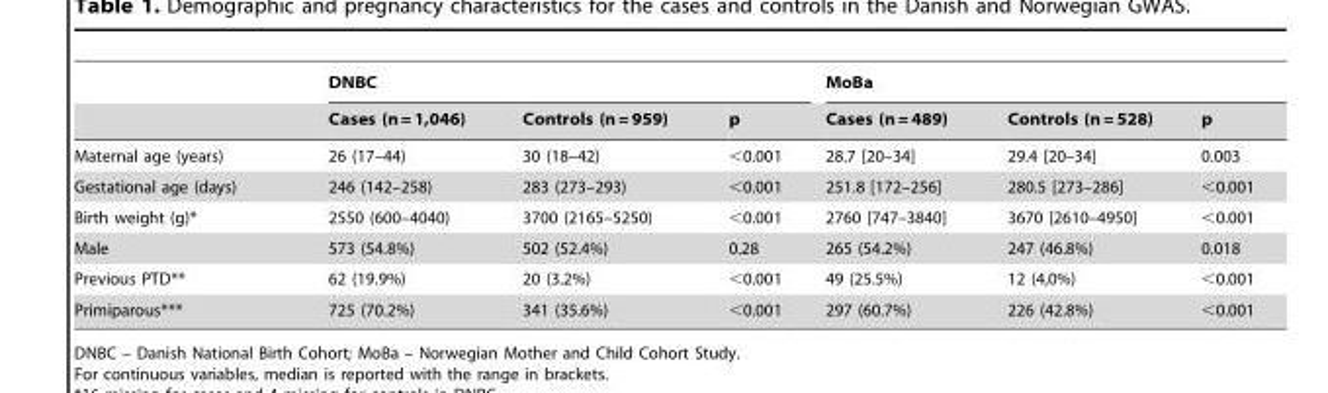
<table><thead><tr><td rowspan="2"></td><td colspan="3">DNBC</td><td colspan="3">MoBa</td></tr><tr><td>Cases (n = 1,046)</td><td>Controls (n = 959)</td><td>p</td><td>Cases (n = 489)</td><td>Controls (n = 528)</td><td>p</td></tr></thead><tbody><tr><td>Maternal age (years)</td><td>26 (17–44)</td><td>30 (18–42)</td><td>&lt;0.001</td><td>28.7 [20–34]</td><td>29.4 [20–34]</td><td>0.003</td></tr><tr><td>Gestational age (days)</td><td>246 (142–258)</td><td>283 (273–293)</td><td>&lt;0.001</td><td>251.8 [172–256]</td><td>280.5 [273–286]</td><td>&lt;0.001</td></tr><tr><td>Birth weight (g)*</td><td>2550 (600–4040)</td><td>3700 (2165–5250)</td><td>&lt;0.001</td><td>2760 [747–3840]</td><td>3670 [2610–4950]</td><td>&lt;0.001</td></tr><tr><td>Male</td><td>573 (54.8%)</td><td>502 (52.4%)</td><td>0.28</td><td>265 (54.2%)</td><td>247 (46.8%)</td><td>0.018</td></tr><tr><td>Previous PTD**</td><td>62 (19.9%)</td><td>20 (3.2%)</td><td>&lt;0.001</td><td>49 (25.5%)</td><td>12 (4,0%)</td><td>&lt;0.001</td></tr><tr><td>Primiparous***</td><td>725 (70.2%)</td><td>341 (35.6%)</td><td>&lt;0.001</td><td>297 (60.7%)</td><td>226 (42.8%)</td><td>&lt;0.001</td></tr></tbody></table>